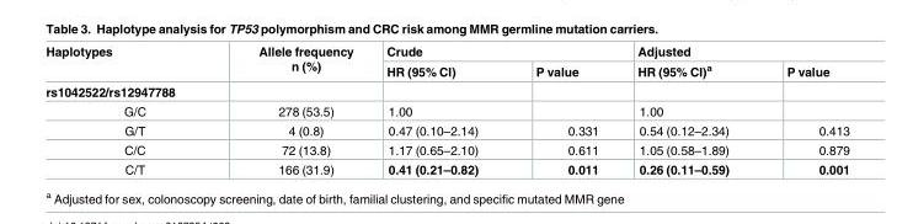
<table><thead><tr><td rowspan="2">Haplotypes</td><td rowspan="2">Allele frequency n (%)</td><td colspan="2">Crude</td><td colspan="2">Adjusted</td></tr><tr><td>HR (95% CI)</td><td>P value</td><td>HR (95% CI)<sup>a</sup></td><td>P value</td></tr></thead><tbody><tr><td colspan="6">rs1042522/rs12947788</td></tr><tr><td>G/C</td><td>278 (53.5)</td><td>1.00</td><td></td><td>1.00</td><td></td></tr><tr><td>G/T</td><td>4 (0.8)</td><td>0.47 (0.10–2.14)</td><td>0.331</td><td>0.54 (0.12–2.34)</td><td>0.413</td></tr><tr><td>C/C</td><td>72 (13.8)</td><td>1.17 (0.65–2.10)</td><td>0.611</td><td>1.05 (0.58–1.89)</td><td>0.879</td></tr><tr><td>C/T</td><td>166 (31.9)</td><td>0.41 (0.21–0.82)</td><td>0.011</td><td>0.26 (0.11–0.59)</td><td>0.001</td></tr></tbody></table>